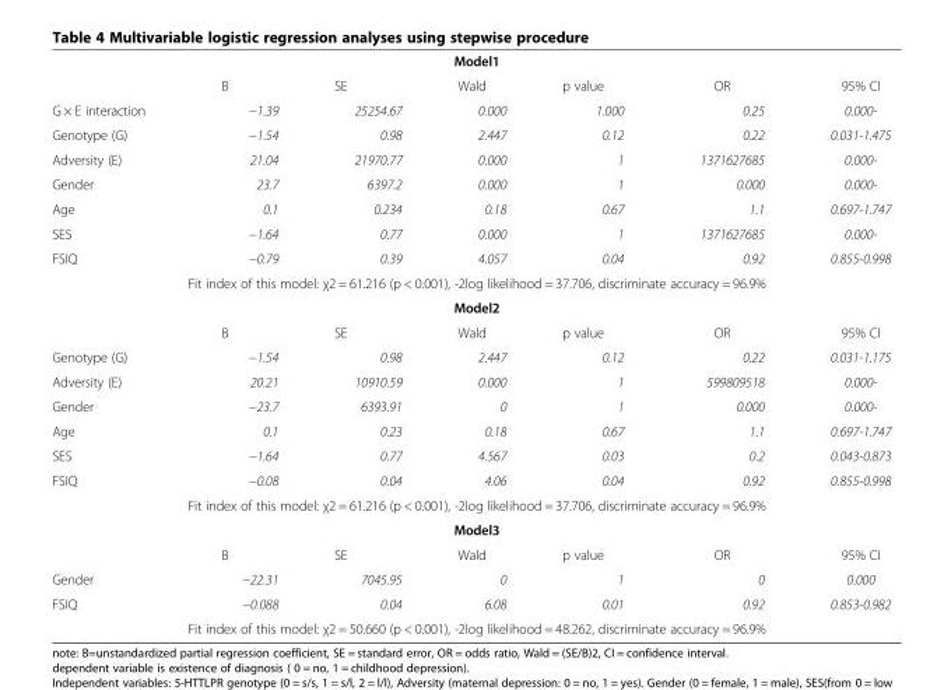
<table><tbody><tr><td colspan="7">Model1</td></tr><tr><td></td><td>B</td><td>SE</td><td>Wald</td><td>p value</td><td>OR</td><td>95% CI</td></tr><tr><td>G × E interaction</td><td>−1.39</td><td>25254.67</td><td>0.000</td><td>1.000</td><td>0.25</td><td>0.000-</td></tr><tr><td>Genotype (G)</td><td>−1.54</td><td>0.98</td><td>2.447</td><td>0.12</td><td>0.22</td><td>0.031-1.475</td></tr><tr><td>Adversity (E)</td><td>21.04</td><td>21970.77</td><td>0.000</td><td>1</td><td>1371627685</td><td>0.000-</td></tr><tr><td>Gender</td><td>23.7</td><td>6397.2</td><td>0.000</td><td>1</td><td>0.000</td><td>0.000-</td></tr><tr><td>Age</td><td>0.1</td><td>0.234</td><td>0.18</td><td>0.67</td><td>1.1</td><td>0.697-1.747</td></tr><tr><td>SES</td><td>−1.64</td><td>0.77</td><td>0.000</td><td>1</td><td>1371627685</td><td>0.000-</td></tr><tr><td>FSIQ</td><td>−0.79</td><td>0.39</td><td>4.057</td><td>0.04</td><td>0.92</td><td>0.855-0.998</td></tr><tr><td colspan="7">Fit index of this model: χ2 = 61.216 (p &lt; 0.001), -2log likelihood = 37.706, discriminate accuracy = 96.9%</td></tr><tr><td colspan="7">Model2</td></tr><tr><td></td><td>B</td><td>SE</td><td>Wald</td><td>p value</td><td>OR</td><td>95% CI</td></tr><tr><td>Genotype (G)</td><td>−1.54</td><td>0.98</td><td>2.447</td><td>0.12</td><td>0.22</td><td>0.031-1.175</td></tr><tr><td>Adversity (E)</td><td>20.21</td><td>10910.59</td><td>0.000</td><td>1</td><td>599809518</td><td>0.000-</td></tr><tr><td>Gender</td><td>−23.7</td><td>6393.91</td><td>0</td><td>1</td><td>0.000</td><td>0.000-</td></tr><tr><td>Age</td><td>0.1</td><td>0.23</td><td>0.18</td><td>0.67</td><td>1.1</td><td>0.697-1.747</td></tr><tr><td>SES</td><td>−1.64</td><td>0.77</td><td>4.567</td><td>0.03</td><td>0.2</td><td>0.043-0.873</td></tr><tr><td>FSIQ</td><td>−0.08</td><td>0.04</td><td>4.06</td><td>0.04</td><td>0.92</td><td>0.855-0.998</td></tr><tr><td colspan="7">Fit index of this model: χ2 = 61.216 (p &lt; 0.001), -2log likelihood = 37.706, discriminate accuracy = 96.9%</td></tr><tr><td colspan="7">Model3</td></tr><tr><td></td><td>B</td><td>SE</td><td>Wald</td><td>p value</td><td>OR</td><td>95% CI</td></tr><tr><td>Gender</td><td>−22.31</td><td>7045.95</td><td>0</td><td>1</td><td>0</td><td>0.000</td></tr><tr><td>FSIQ</td><td>−0.088</td><td>0.04</td><td>6.08</td><td>0.01</td><td>0.92</td><td>0.853-0.982</td></tr><tr><td colspan="7">Fit index of this model: χ2 = 50.660 (p &lt; 0.001), -2log likelihood = 48.262, discriminate accuracy = 96.9%</td></tr></tbody></table>